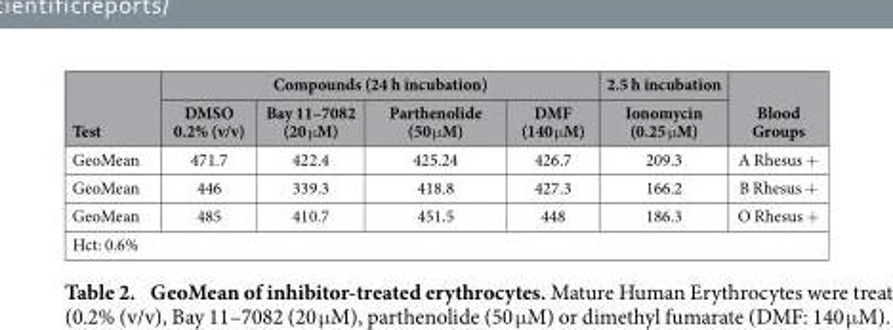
<table><thead><tr><td rowspan="2">Test</td><td colspan="4">Compounds (24 h incubation)</td><td rowspan="2">2.5 h incubation Ionomycin (0.25 μ M)</td><td rowspan="2">Blood Groups</td></tr><tr><td>DMSO 0.2% (v/v)</td><td>Bay 11–7082 (20 μ M)</td><td>Parthenolide (50 μ M)</td><td>DMF (140 μ M)</td></tr></thead><tbody><tr><td>GeoMean</td><td>471.7</td><td>422.4</td><td>425.24</td><td>426.7</td><td>209.3</td><td>A Rhesus +</td></tr><tr><td>GeoMean</td><td>446</td><td>339.3</td><td>418.8</td><td>427.3</td><td>166.2</td><td>B Rhesus +</td></tr><tr><td>GeoMean</td><td>485</td><td>410.7</td><td>451.5</td><td>448</td><td>186.3</td><td>O Rhesus +</td></tr><tr><td colspan="7">Hct: 0.6%</td></tr></tbody></table>